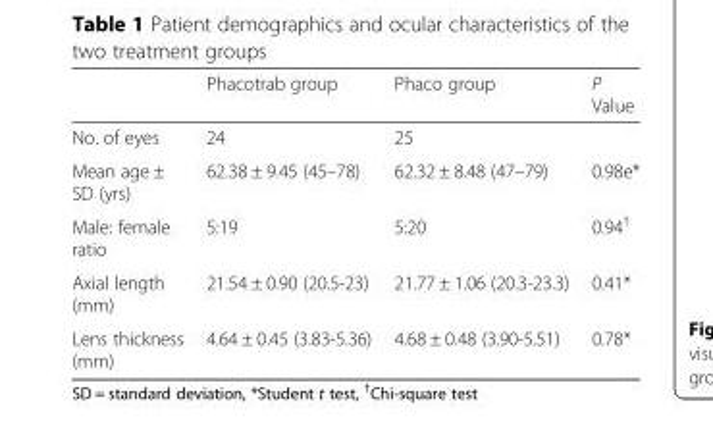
<table><thead><tr><td></td><td>Phacotrab group</td><td>Phaco group</td><td>P Value</td></tr></thead><tbody><tr><td>No. of eyes</td><td>24</td><td>25</td><td></td></tr><tr><td>Mean age ± SD (yrs)</td><td>62.38 ± 9.45 (45–78)</td><td>62.32 ± 8.48 (47–79)</td><td>0.98e*</td></tr><tr><td>Male: female ratio</td><td>5:19</td><td>5:20</td><td>0.94<sup>†</sup></td></tr><tr><td>Axial length (mm)</td><td>21.54 ± 0.90 (20.5-23)</td><td>21.77 ± 1.06 (20.3-23.3)</td><td>0.41*</td></tr><tr><td>Lens thickness (mm)</td><td>4.64 ± 0.45 (3.83-5.36)</td><td>4.68 ± 0.48 (3.90-5.51)</td><td>0.78*</td></tr></tbody></table>